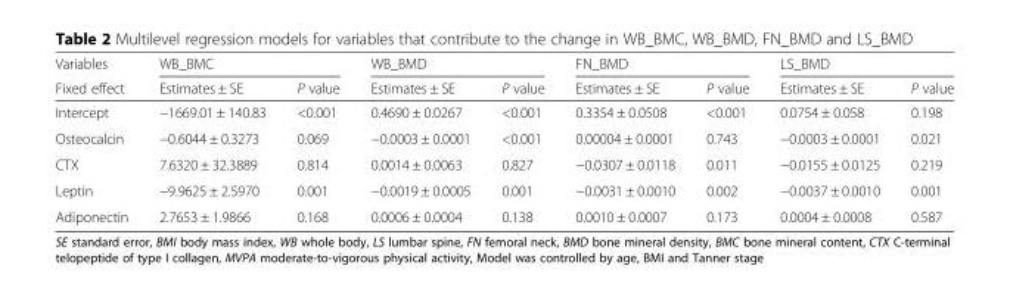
<table><thead><tr><td rowspan="2">Variables Fixed effect</td><td colspan="2">WB_BMC</td><td colspan="2">WB_BMD</td><td colspan="2">FN_BMD</td><td colspan="2">LS_BMD</td></tr><tr><td>Estimates ± SE</td><td>P value</td><td>Estimates ± SE</td><td>P value</td><td>Estimates ± SE</td><td>P value</td><td>Estimates ± SE</td><td>P value</td></tr></thead><tbody><tr><td>Intercept</td><td>−1669.01 ± 140.83</td><td>&lt;0.001</td><td>0.4690 ± 0.0267</td><td>&lt;0.001</td><td>0.3354 ± 0.0508</td><td>&lt;0.001</td><td>0.0754 ± 0.058</td><td>0.198</td></tr><tr><td>Osteocalcin</td><td>−0.6044 ± 0.3273</td><td>0.069</td><td>−0.0003 ± 0.0001</td><td>&lt;0.001</td><td>0.00004 ± 0.0001</td><td>0.743</td><td>−0.0003 ± 0.0001</td><td>0.021</td></tr><tr><td>CTX</td><td>7.6320 ± 32.3889</td><td>0.814</td><td>0.0014 ± 0.0063</td><td>0.827</td><td>−0.0307 ± 0.0118</td><td>0.011</td><td>−0.0155 ± 0.0125</td><td>0.219</td></tr><tr><td>Leptin</td><td>−9.9625 ± 2.5970</td><td>0.001</td><td>−0.0019 ± 0.0005</td><td>0.001</td><td>−0.0031 ± 0.0010</td><td>0.002</td><td>−0.0037 ± 0.0010</td><td>0.001</td></tr><tr><td>Adiponectin</td><td>2.7653 ± 1.9866</td><td>0.168</td><td>0.0006 ± 0.0004</td><td>0.138</td><td>0.0010 ± 0.0007</td><td>0.173</td><td>0.0004 ± 0.0008</td><td>0.587</td></tr></tbody></table>